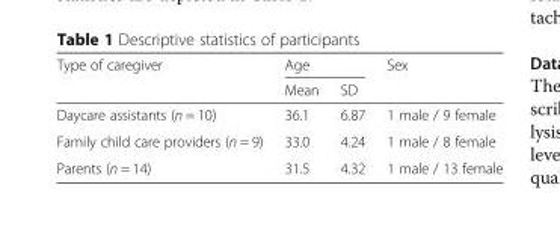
<table><thead><tr><td rowspan="2">Type of caregiver</td><td colspan="2">Age</td><td rowspan="2">Sex</td></tr><tr><td>Mean</td><td>SD</td></tr></thead><tbody><tr><td>Daycare assistants (n = 10)</td><td>36.1</td><td>6.87</td><td>1 male / 9 female</td></tr><tr><td>Family child care providers (n = 9)</td><td>33.0</td><td>4.24</td><td>1 male / 8 female</td></tr><tr><td>Parents (n = 14)</td><td>31.5</td><td>4.32</td><td>1 male / 13 female</td></tr></tbody></table>